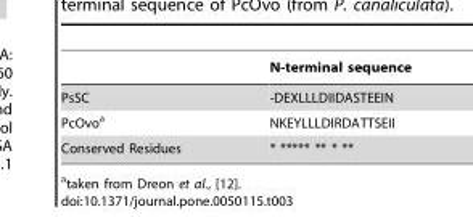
<table><thead><tr><td></td><td>N-terminal sequence</td></tr></thead><tbody><tr><td>PsSC</td><td>-DEXLLLDIIDASTEEIN</td></tr><tr><td>PcOvo<sup>a</sup></td><td>NKEYLLLDIRDATTSEII</td></tr><tr><td>Conserved Residues</td><td>* ***** ** * **</td></tr></tbody></table>